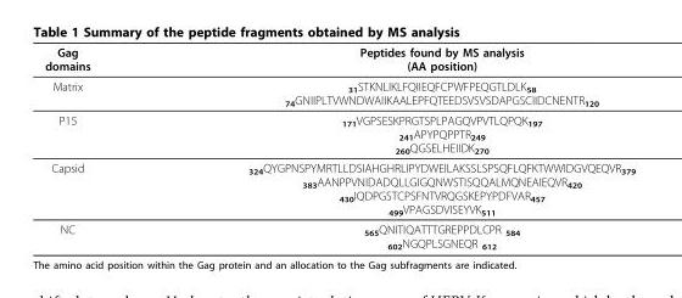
<table><thead><tr><td>Gag domains</td><td>Peptides found by MS analysis (AA position)</td></tr></thead><tbody><tr><td>Matrix</td><td><sub>31</sub>STKNLIKLFQIIEQFCPWFPEQGTLDLK<sub>58 74</sub>GNIIPLTVWNDWAIIKAALEPFQTEEDSVSVSDAPGSCIIDCNENTR<sub>120</sub></td></tr><tr><td>P15</td><td><sub>171</sub>VGPSESKPRGTSPLPAGQVPVTLQPQK<sub>197 241</sub>APYPQPPTR<sub>249 260</sub>QGSELHEIIDK<sub>270</sub></td></tr><tr><td>Capsid</td><td><sub>324</sub>QYGPNSPYMRTLLDSIAHGHRLIPYDWEILAKSSLSPSQFLQFKTWWIDGVQEQVR<sub>379 383</sub>AANPPVNIDADQLLGIGQNWSTISQQALMQNEAIEQVR<sub>420 430</sub>IQDPGSTCPSFNTVRQGSKEPYPDFVAR<sub>457 499</sub>VPAGSDVISEYVK<sub>511</sub></td></tr><tr><td>NC</td><td><sub>565</sub>QNITIQATTTGREPPDLCPR <sub>584 602</sub>NGQPLSGNEQR <sub>612</sub></td></tr></tbody></table>